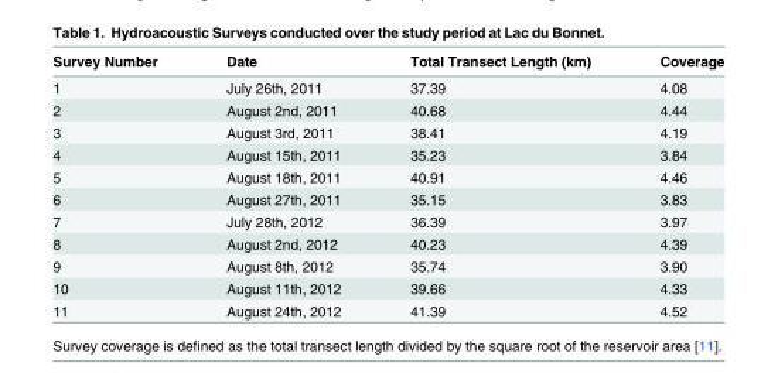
<table><thead><tr><td>Survey Number</td><td>Date</td><td>Total Transect Length (km)</td><td>Coverage</td></tr></thead><tbody><tr><td>1</td><td>July 26th, 2011</td><td>37.39</td><td>4.08</td></tr><tr><td>2</td><td>August 2nd, 2011</td><td>40.68</td><td>4.44</td></tr><tr><td>3</td><td>August 3rd, 2011</td><td>38.41</td><td>4.19</td></tr><tr><td>4</td><td>August 15th, 2011</td><td>35.23</td><td>3.84</td></tr><tr><td>5</td><td>August 18th, 2011</td><td>40.91</td><td>4.46</td></tr><tr><td>6</td><td>August 27th, 2011</td><td>35.15</td><td>3.83</td></tr><tr><td>7</td><td>July 28th, 2012</td><td>36.39</td><td>3.97</td></tr><tr><td>8</td><td>August 2nd, 2012</td><td>40.23</td><td>4.39</td></tr><tr><td>9</td><td>August 8th, 2012</td><td>35.74</td><td>3.90</td></tr><tr><td>10</td><td>August 11th, 2012</td><td>39.66</td><td>4.33</td></tr><tr><td>11</td><td>August 24th, 2012</td><td>41.39</td><td>4.52</td></tr></tbody></table>